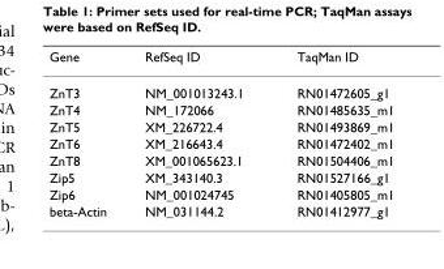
<table><thead><tr><td>Gene</td><td>RefSeq ID</td><td>TaqMan ID</td></tr></thead><tbody><tr><td>ZnT3</td><td>NM_001013243.1</td><td>RN01472605_g1</td></tr><tr><td>ZnT4</td><td>NM_172066</td><td>RN01485635_m1</td></tr><tr><td>ZnT5</td><td>XM_226722.4</td><td>RN01493869_m1</td></tr><tr><td>ZnT6</td><td>XM_216643.4</td><td>RN01472402_m1</td></tr><tr><td>ZnT8</td><td>XM_001065623.1</td><td>RN01504406_m1</td></tr><tr><td>Zip5</td><td>XM_343140.3</td><td>RN01527166_g1</td></tr><tr><td>Zip6</td><td>NM_001024745</td><td>RN01405805_m1</td></tr><tr><td>beta-Actin</td><td>NM_031144.2</td><td>RN01412977_g1</td></tr></tbody></table>